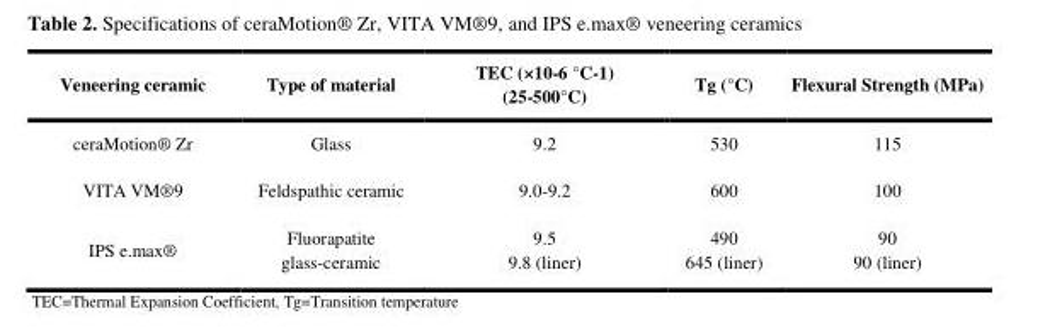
<table><thead><tr><td>Veneering ceramic</td><td>Type of material</td><td>TEC (×10-6 °C-1) (25-500°C)</td><td>Tg (°C)</td><td>Flexural Strength (MPa)</td></tr></thead><tbody><tr><td>ceraMotion® Zr</td><td>Glass</td><td>9.2</td><td>530</td><td>115</td></tr><tr><td>VITA VM®9</td><td>Feldspathic ceramic</td><td>9.0-9.2</td><td>600</td><td>100</td></tr><tr><td>IPS e.max®</td><td>Fluorapatite glass-ceramic</td><td>9.5 9.8 (liner)</td><td>490 645 (liner)</td><td>90 90 (liner)</td></tr></tbody></table>